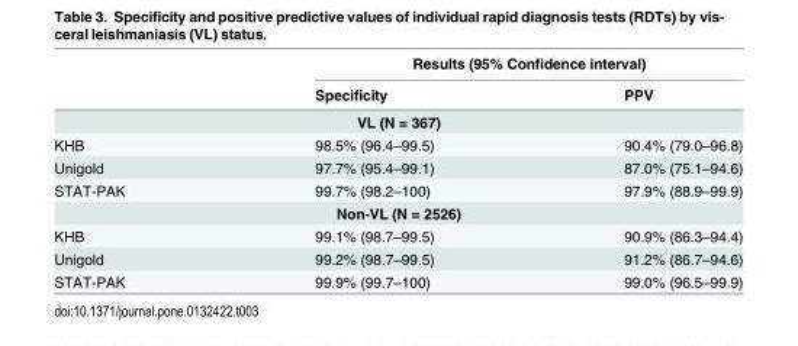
<table><thead><tr><td rowspan="2"></td><td colspan="2">Results (95% Confidence interval)</td></tr><tr><td>Specificity</td><td>PPV</td></tr></thead><tbody><tr><td colspan="3">VL (N = 367)</td></tr><tr><td>KHB</td><td>98.5% (96.4–99.5)</td><td>90.4% (79.0–96.8)</td></tr><tr><td>Unigold</td><td>97.7% (95.4–99.1)</td><td>87.0% (75.1–94.6)</td></tr><tr><td>STAT-PAK</td><td>99.7% (98.2–100)</td><td>97.9% (88.9–99.9)</td></tr><tr><td colspan="3">Non-VL (N = 2526)</td></tr><tr><td>KHB</td><td>99.1% (98.7–99.5)</td><td>90.9% (86.3–94.4)</td></tr><tr><td>Unigold</td><td>99.2% (98.7–99.5)</td><td>91.2% (86.7–94.6)</td></tr><tr><td>STAT-PAK</td><td>99.9% (99.7–100)</td><td>99.0% (96.5–99.9)</td></tr></tbody></table>